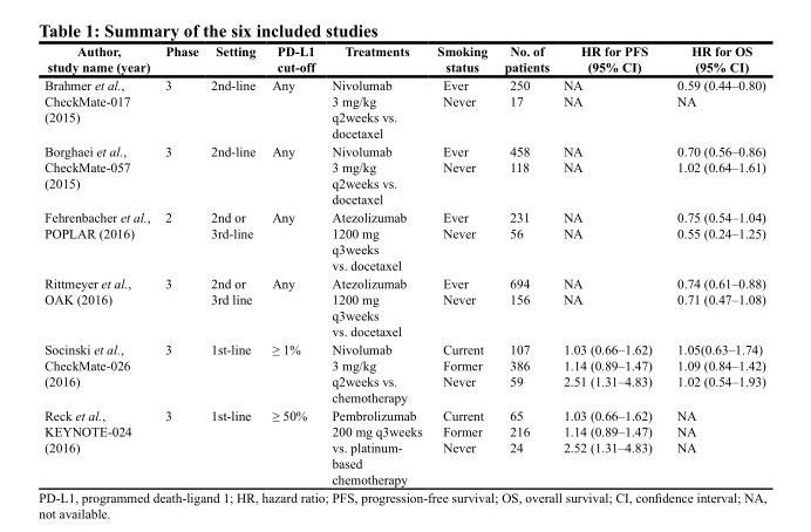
<table><thead><tr><td>Author, study name (year)</td><td>Phase</td><td>Setting</td><td>PD-L1 cut-off</td><td>Treatments</td><td>Smoking status</td><td>No. of patients</td><td>HR for PFS (95% CI)</td><td>HR for OS (95% CI)</td></tr></thead><tbody><tr><td>Brahmer et al., CheckMate-017 (2015)</td><td>3</td><td>2nd-line</td><td>Any</td><td>Nivolumab 3 mg/kg q2weeks vs. docetaxel</td><td>Ever Never</td><td>250 17</td><td>NA NA</td><td>0.59 (0.44–0.80) NA</td></tr><tr><td>Borghaei et al., CheckMate-057 (2015)</td><td>3</td><td>2nd-line</td><td>Any</td><td>Nivolumab 3 mg/kg q2weeks vs. docetaxel</td><td>Ever Never</td><td>458 118</td><td>NA NA</td><td>0.70 (0.56–0.86) 1.02 (0.64–1.61)</td></tr><tr><td>Fehrenbacher et al., POPLAR (2016)</td><td>2</td><td>2nd or 3rd-line</td><td>Any</td><td>Atezolizumab 1200 mg q3weeks vs. docetaxel</td><td>Ever Never</td><td>231 56</td><td>NA NA</td><td>0.75 (0.54–1.04) 0.55 (0.24–1.25)</td></tr><tr><td>Rittmeyer et al., OAK (2016)</td><td>3</td><td>2nd or 3rd line</td><td>Any</td><td>Atezolizumab 1200 mg q3weeks vs. docetaxel</td><td>Ever Never</td><td>694 156</td><td>NA NA</td><td>0.74 (0.61–0.88) 0.71 (0.47–1.08)</td></tr><tr><td>Socinski et al., CheckMate-026 (2016)</td><td>3</td><td>1st-line</td><td>≥ 1%</td><td>Nivolumab 3 mg/kg q2weeks vs. chemotherapy</td><td>Current Former Never</td><td>107 386 59</td><td>1.03 (0.66–1.62) 1.14 (0.89–1.47) 2.51 (1.31–4.83)</td><td>1.05(0.63–1.74) 1.09 (0.84–1.42) 1.02 (0.54–1.93)</td></tr><tr><td>Reck et al., KEYNOTE-024 (2016)</td><td>3</td><td>1st-line</td><td>≥ 50%</td><td>Pembrolizumab 200 mg q3weeks vs. platinum- based chemotherapy</td><td>Current Former Never</td><td>65 216 24</td><td>1.03 (0.66–1.62) 1.14 (0.89–1.47) 2.52 (1.31–4.83)</td><td>NA NA NA</td></tr></tbody></table>